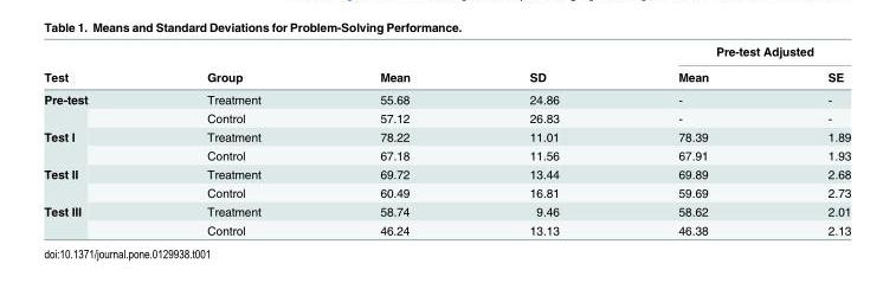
<table><thead><tr><td rowspan="2">Test</td><td rowspan="2">Group</td><td rowspan="2">Mean</td><td rowspan="2">SD</td><td colspan="2">Pre-test Adjusted</td></tr><tr><td>Mean</td><td>SE</td></tr></thead><tbody><tr><td rowspan="2">Pre-test</td><td>Treatment</td><td>55.68</td><td>24.86</td><td>-</td><td>-</td></tr><tr><td>Control</td><td>57.12</td><td>26.83</td><td>-</td><td>-</td></tr><tr><td rowspan="2">Test I</td><td>Treatment</td><td>78.22</td><td>11.01</td><td>78.39</td><td>1.89</td></tr><tr><td>Control</td><td>67.18</td><td>11.56</td><td>67.91</td><td>1.93</td></tr><tr><td rowspan="2">Test II</td><td>Treatment</td><td>69.72</td><td>13.44</td><td>69.89</td><td>2.68</td></tr><tr><td>Control</td><td>60.49</td><td>16.81</td><td>59.69</td><td>2.73</td></tr><tr><td rowspan="2">Test III</td><td>Treatment</td><td>58.74</td><td>9.46</td><td>58.62</td><td>2.01</td></tr><tr><td>Control</td><td>46.24</td><td>13.13</td><td>46.38</td><td>2.13</td></tr></tbody></table>